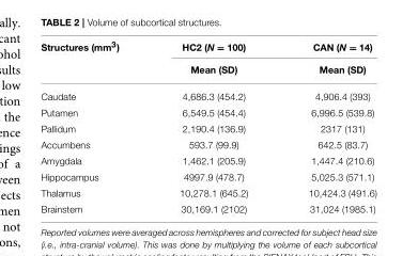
<table><thead><tr><td rowspan="2">Structures (mm<sup>3</sup>)</td><td rowspan="2">HC2 (N = 100) Mean (SD)</td><td rowspan="2">CAN (N = 14) Mean (SD)</td></tr><tr></tr></thead><tbody><tr><td>Caudate</td><td>4,686.3 (454.2)</td><td>4,906.4 (393)</td></tr><tr><td>Putamen</td><td>6,549.5 (454.4)</td><td>6,996.5 (539.8)</td></tr><tr><td>Pallidum</td><td>2,190.4 (136.9)</td><td>2317 (131)</td></tr><tr><td>Accumbens</td><td>593.7 (99.9)</td><td>642.5 (83.7)</td></tr><tr><td>Amygdala</td><td>1,462.1 (205.9)</td><td>1,447.4 (210.6)</td></tr><tr><td>Hippocampus</td><td>4997.9 (478.7)</td><td>5,025.3 (571.1)</td></tr><tr><td>Thalamus</td><td>10,278.1 (645.2)</td><td>10,424.3 (491.6)</td></tr><tr><td>Brainstem</td><td>30,169.1 (2102)</td><td>31,024 (1985.1)</td></tr></tbody></table>